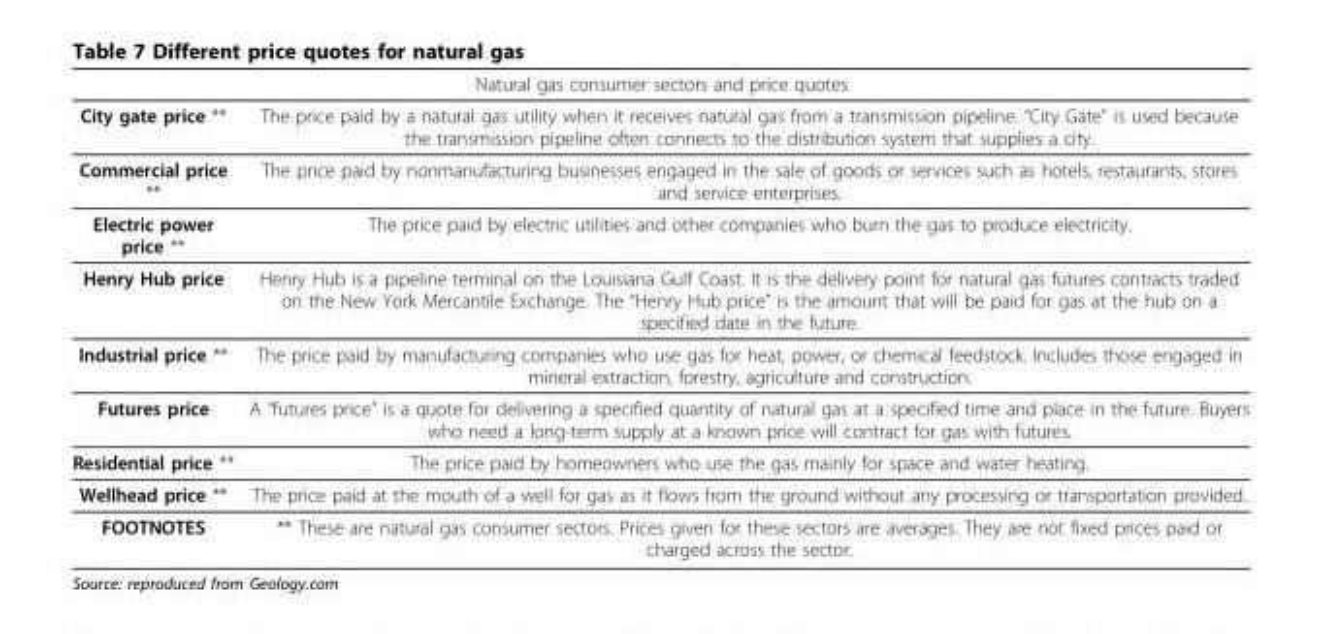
<table><thead><tr><td colspan="2">Natural gas consumer sectors and price quotes</td></tr><tr><td>City gate price **</td><td>The price paid by a natural gas utility when it receives natural gas from a transmission pipeline. “City Gate” is used because the transmission pipeline often connects to the distribution system that supplies a city.</td></tr></thead><tbody><tr><td>Commercial price **</td><td>The price paid by nonmanufacturing businesses engaged in the sale of goods or services such as hotels, restaurants, stores and service enterprises.</td></tr><tr><td>Electric power price **</td><td>The price paid by electric utilities and other companies who burn the gas to produce electricity.</td></tr><tr><td>Henry Hub price</td><td>Henry Hub is a pipeline terminal on the Louisiana Gulf Coast. It is the delivery point for natural gas futures contracts traded on the New York Mercantile Exchange. The “Henry Hub price” is the amount that will be paid for gas at the hub on a specified date in the future.</td></tr><tr><td>Industrial price **</td><td>The price paid by manufacturing companies who use gas for heat, power, or chemical feedstock. Includes those engaged in mineral extraction, forestry, agriculture and construction.</td></tr><tr><td>Futures price</td><td>A “futures price” is a quote for delivering a specified quantity of natural gas at a specified time and place in the future. Buyers who need a long-term supply at a known price will contract for gas with futures.</td></tr><tr><td>Residential price **</td><td>The price paid by homeowners who use the gas mainly for space and water heating.</td></tr><tr><td>Wellhead price **</td><td>The price paid at the mouth of a well for gas as it flows from the ground without any processing or transportation provided.</td></tr><tr><td>FOOTNOTES</td><td>** These are natural gas consumer sectors. Prices given for these sectors are averages. They are not fixed prices paid or charged across the sector.</td></tr></tbody></table>